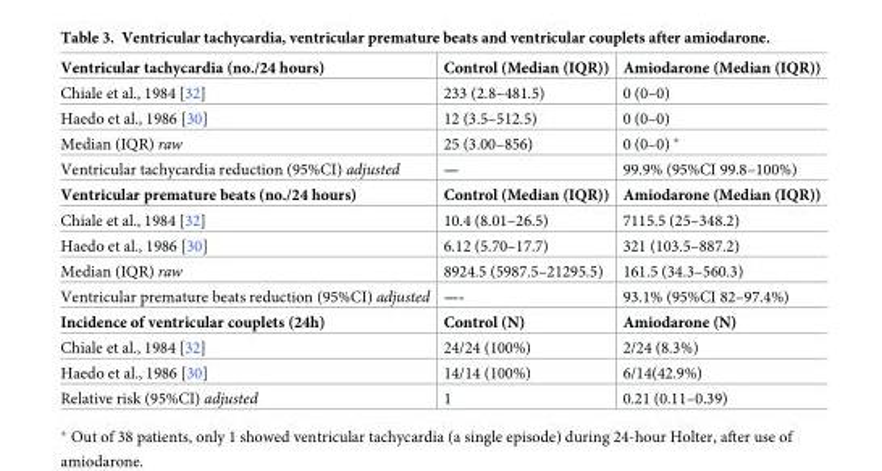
<table><tbody><tr><td>Ventricular tachycardia (no./24 hours)</td><td>Control (Median (IQR))</td><td>Amiodarone (Median (IQR))</td></tr><tr><td>Chiale et al., 1984 [32]</td><td>233 (2.8–481.5)</td><td>0 (0–0)</td></tr><tr><td>Haedo et al., 1986 [30]</td><td>12 (3.5–512.5)</td><td>0 (0–0)</td></tr><tr><td>Median (IQR) raw</td><td>25 (3.00–856)</td><td>0 (0–0) *</td></tr><tr><td>Ventricular tachycardia reduction (95%CI) adjusted</td><td>—</td><td>99.9% (95%CI 99.8–100%)</td></tr><tr><td>Ventricular premature beats (no./24 hours)</td><td>Control (Median (IQR))</td><td>Amiodarone (Median (IQR))</td></tr><tr><td>Chiale et al., 1984 [32]</td><td>10.4 (8.01–26.5)</td><td>7115.5 (25–348.2)</td></tr><tr><td>Haedo et al., 1986 [30]</td><td>6.12 (5.70–17.7)</td><td>321 (103.5–887.2)</td></tr><tr><td>Median (IQR) raw</td><td>8924.5 (5987.5–21295.5)</td><td>161.5 (34.3–560.3)</td></tr><tr><td>Ventricular premature beats reduction (95%CI) adjusted</td><td>—-</td><td>93.1% (95%CI 82–97.4%)</td></tr><tr><td>Incidence of ventricular couplets (24h)</td><td>Control (N)</td><td>Amiodarone (N)</td></tr><tr><td>Chiale et al., 1984 [32]</td><td>24/24 (100%)</td><td>2/24 (8.3%)</td></tr><tr><td>Haedo et al., 1986 [30]</td><td>14/14 (100%)</td><td>6/14(42.9%)</td></tr><tr><td>Relative risk (95%CI) adjusted</td><td>1</td><td>0.21 (0.11–0.39)</td></tr></tbody></table>